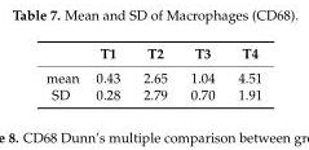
<table><thead><tr><td></td><td>T1</td><td>T2</td><td>T3</td><td>T4</td></tr></thead><tbody><tr><td>mean</td><td>0.43</td><td>2.65</td><td>1.04</td><td>4.51</td></tr><tr><td>SD</td><td>0.28</td><td>2.79</td><td>0.70</td><td>1.91</td></tr></tbody></table>